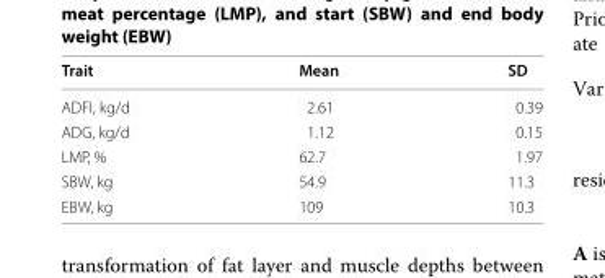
<table><thead><tr><td>Trait</td><td>Mean</td><td>SD</td></tr></thead><tbody><tr><td>ADFI, kg/d</td><td>2.61</td><td>0.39</td></tr><tr><td>ADG, kg/d</td><td>1.12</td><td>0.15</td></tr><tr><td>LMP, %</td><td>62.7</td><td>1.97</td></tr><tr><td>SBW, kg</td><td>54.9</td><td>11.3</td></tr><tr><td>EBW, kg</td><td>109</td><td>10.3</td></tr></tbody></table>